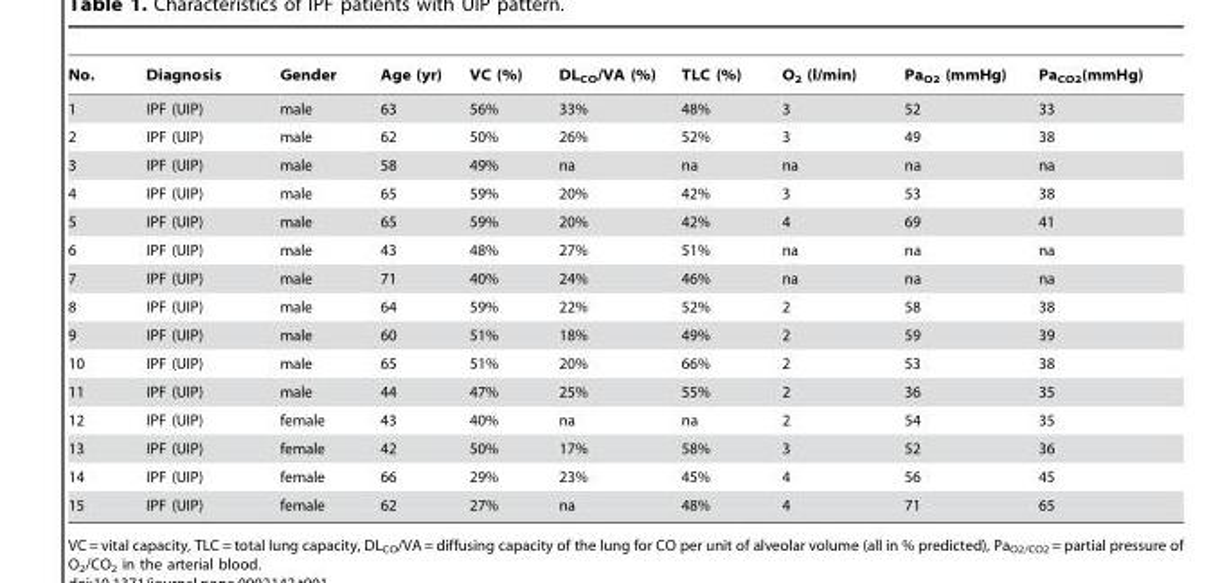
<table><thead><tr><td>No.</td><td>Diagnosis</td><td>Gender</td><td>Age (yr)</td><td>VC (%)</td><td>DL<sub>CO</sub>/VA (%)</td><td>TLC (%)</td><td>O<sub>2</sub> (l/min)</td><td>Pa<sub>O2</sub> (mmHg)</td><td>Pa<sub>CO2</sub>(mmHg)</td></tr></thead><tbody><tr><td>1</td><td>IPF (UIP)</td><td>male</td><td>63</td><td>56%</td><td>33%</td><td>48%</td><td>3</td><td>52</td><td>33</td></tr><tr><td>2</td><td>IPF (UIP)</td><td>male</td><td>62</td><td>50%</td><td>26%</td><td>52%</td><td>3</td><td>49</td><td>38</td></tr><tr><td>3</td><td>IPF (UIP)</td><td>male</td><td>58</td><td>49%</td><td>na</td><td>na</td><td>na</td><td>na</td><td>na</td></tr><tr><td>4</td><td>IPF (UIP)</td><td>male</td><td>65</td><td>59%</td><td>20%</td><td>42%</td><td>3</td><td>53</td><td>38</td></tr><tr><td>5</td><td>IPF (UIP)</td><td>male</td><td>65</td><td>59%</td><td>20%</td><td>42%</td><td>4</td><td>69</td><td>41</td></tr><tr><td>6</td><td>IPF (UIP)</td><td>male</td><td>43</td><td>48%</td><td>27%</td><td>51%</td><td>na</td><td>na</td><td>na</td></tr><tr><td>7</td><td>IPF (UIP)</td><td>male</td><td>71</td><td>40%</td><td>24%</td><td>46%</td><td>na</td><td>na</td><td>na</td></tr><tr><td>8</td><td>IPF (UIP)</td><td>male</td><td>64</td><td>59%</td><td>22%</td><td>52%</td><td>2</td><td>58</td><td>38</td></tr><tr><td>9</td><td>IPF (UIP)</td><td>male</td><td>60</td><td>51%</td><td>18%</td><td>49%</td><td>2</td><td>59</td><td>39</td></tr><tr><td>10</td><td>IPF (UIP)</td><td>male</td><td>65</td><td>51%</td><td>20%</td><td>66%</td><td>2</td><td>53</td><td>38</td></tr><tr><td>11</td><td>IPF (UIP)</td><td>male</td><td>44</td><td>47%</td><td>25%</td><td>55%</td><td>2</td><td>36</td><td>35</td></tr><tr><td>12</td><td>IPF (UIP)</td><td>female</td><td>43</td><td>40%</td><td>na</td><td>na</td><td>2</td><td>54</td><td>35</td></tr><tr><td>13</td><td>IPF (UIP)</td><td>female</td><td>42</td><td>50%</td><td>17%</td><td>58%</td><td>3</td><td>52</td><td>36</td></tr><tr><td>14</td><td>IPF (UIP)</td><td>female</td><td>66</td><td>29%</td><td>23%</td><td>45%</td><td>4</td><td>56</td><td>45</td></tr><tr><td>15</td><td>IPF (UIP)</td><td>female</td><td>62</td><td>27%</td><td>na</td><td>48%</td><td>4</td><td>71</td><td>65</td></tr></tbody></table>